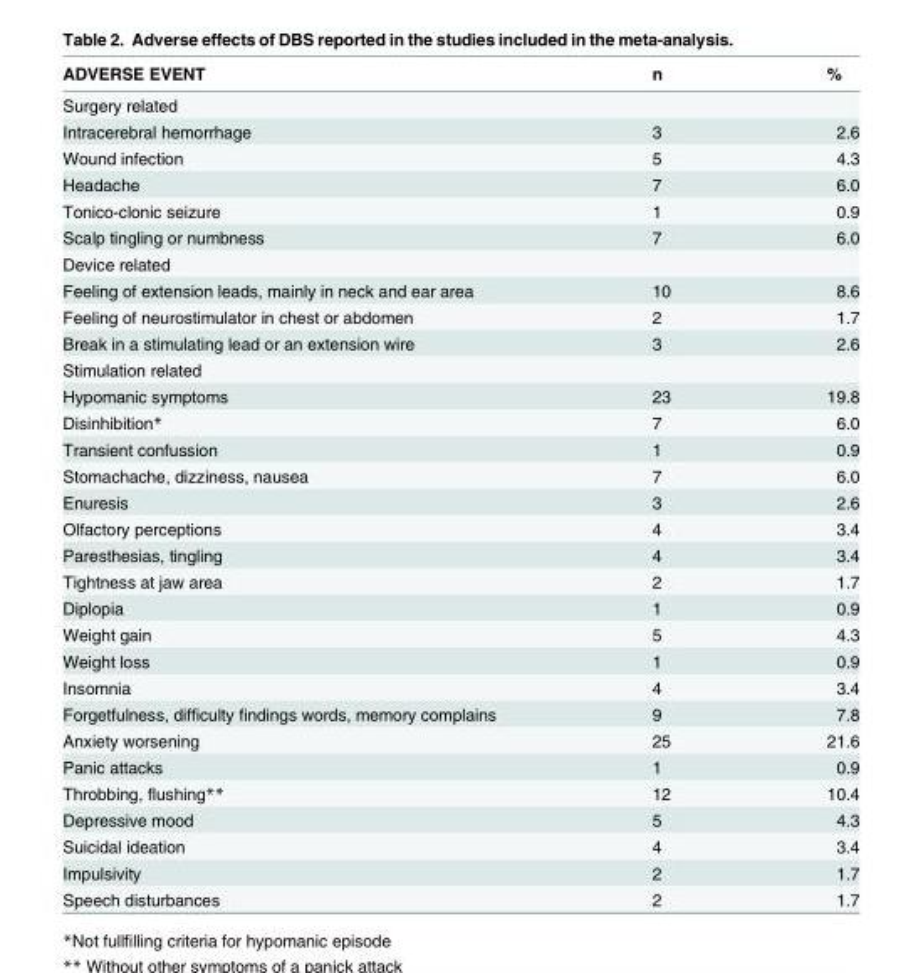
<table><thead><tr><td>ADVERSE EVENT</td><td>n</td><td>%</td></tr></thead><tbody><tr><td colspan="3">Surgery related</td></tr><tr><td>Intracerebral hemorrhage</td><td>3</td><td>2.6</td></tr><tr><td>Wound infection</td><td>5</td><td>4.3</td></tr><tr><td>Headache</td><td>7</td><td>6.0</td></tr><tr><td>Tonico-clonic seizure</td><td>1</td><td>0.9</td></tr><tr><td>Scalp tingling or numbness</td><td>7</td><td>6.0</td></tr><tr><td colspan="3">Device related</td></tr><tr><td>Feeling of extension leads, mainly in neck and ear area</td><td>10</td><td>8.6</td></tr><tr><td>Feeling of neurostimulator in chest or abdomen</td><td>2</td><td>1.7</td></tr><tr><td>Break in a stimulating lead or an extension wire</td><td>3</td><td>2.6</td></tr><tr><td colspan="3">Stimulation related</td></tr><tr><td>Hypomanic symptoms</td><td>23</td><td>19.8</td></tr><tr><td>Disinhibition*</td><td>7</td><td>6.0</td></tr><tr><td>Transient confussion</td><td>1</td><td>0.9</td></tr><tr><td>Stomachache, dizziness, nausea</td><td>7</td><td>6.0</td></tr><tr><td>Enuresis</td><td>3</td><td>2.6</td></tr><tr><td>Olfactory perceptions</td><td>4</td><td>3.4</td></tr><tr><td>Paresthesias, tingling</td><td>4</td><td>3.4</td></tr><tr><td>Tightness at jaw area</td><td>2</td><td>1.7</td></tr><tr><td>Diplopia</td><td>1</td><td>0.9</td></tr><tr><td>Weight gain</td><td>5</td><td>4.3</td></tr><tr><td>Weight loss</td><td>1</td><td>0.9</td></tr><tr><td>Insomnia</td><td>4</td><td>3.4</td></tr><tr><td>Forgetfulness, difficulty findings words, memory complains</td><td>9</td><td>7.8</td></tr><tr><td>Anxiety worsening</td><td>25</td><td>21.6</td></tr><tr><td>Panic attacks</td><td>1</td><td>0.9</td></tr><tr><td>Throbbing, flushing**</td><td>12</td><td>10.4</td></tr><tr><td>Depressive mood</td><td>5</td><td>4.3</td></tr><tr><td>Suicidal ideation</td><td>4</td><td>3.4</td></tr><tr><td>Impulsivity</td><td>2</td><td>1.7</td></tr><tr><td>Speech disturbances</td><td>2</td><td>1.7</td></tr></tbody></table>